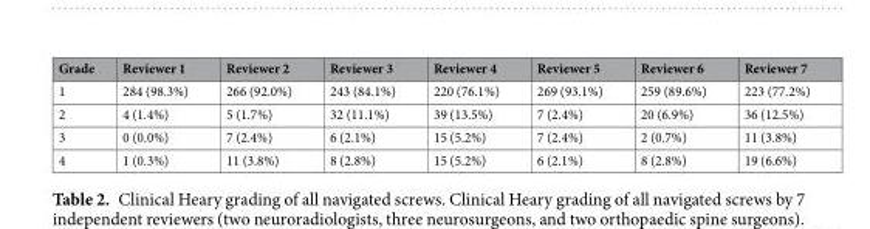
<table><thead><tr><td>Grade</td><td>Reviewer 1</td><td>Reviewer 2</td><td>Reviewer 3</td><td>Reviewer 4</td><td>Reviewer 5</td><td>Reviewer 6</td><td>Reviewer 7</td></tr></thead><tbody><tr><td>1</td><td>284 (98.3%)</td><td>266 (92.0%)</td><td>243 (84.1%)</td><td>220 (76.1%)</td><td>269 (93.1%)</td><td>259 (89.6%)</td><td>223 (77.2%)</td></tr><tr><td>2</td><td>4 (1.4%)</td><td>5 (1.7%)</td><td>32 (11.1%)</td><td>39 (13.5%)</td><td>7 (2.4%)</td><td>20 (6.9%)</td><td>36 (12.5%)</td></tr><tr><td>3</td><td>0 (0.0%)</td><td>7 (2.4%)</td><td>6 (2.1%)</td><td>15 (5.2%)</td><td>7 (2.4%)</td><td>2 (0.7%)</td><td>11 (3.8%)</td></tr><tr><td>4</td><td>1 (0.3%)</td><td>11 (3.8%)</td><td>8 (2.8%)</td><td>15 (5.2%)</td><td>6 (2.1%)</td><td>8 (2.8%)</td><td>19 (6.6%)</td></tr></tbody></table>